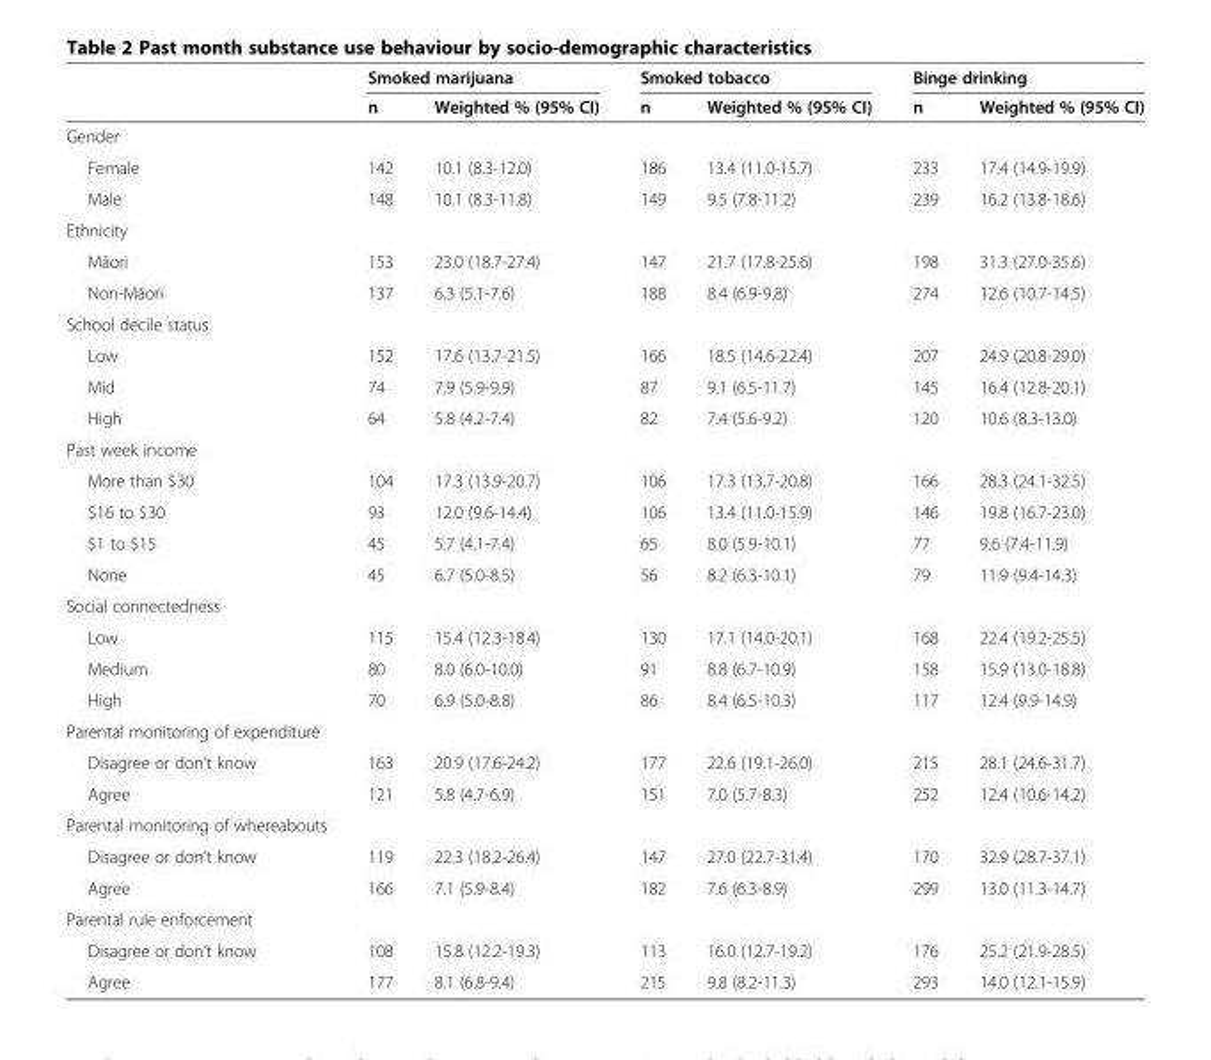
<table><thead><tr><td rowspan="2"></td><td colspan="2">Smoked marijuana</td><td colspan="2">Smoked tobacco</td><td colspan="2">Binge drinking</td></tr><tr><td>n</td><td>Weighted % (95% CI)</td><td>n</td><td>Weighted % (95% CI)</td><td>n</td><td>Weighted % (95% CI)</td></tr></thead><tbody><tr><td colspan="7">Gender</td></tr><tr><td>Female</td><td>142</td><td>10.1 (8.3-12.0)</td><td>186</td><td>13.4 (11.0-15.7)</td><td>233</td><td>17.4 (14.9-19.9)</td></tr><tr><td>Male</td><td>148</td><td>10.1 (8.3-11.8)</td><td>149</td><td>9.5 (7.8-11.2)</td><td>239</td><td>16.2 (13.8-18.6)</td></tr><tr><td colspan="7">Ethnicity</td></tr><tr><td>Māori</td><td>153</td><td>23.0 (18.7-27.4)</td><td>147</td><td>21.7 (17.8-25.6)</td><td>198</td><td>31.3 (27.0-35.6)</td></tr><tr><td>Non-Māori</td><td>137</td><td>6.3 (5.1-7.6)</td><td>188</td><td>8.4 (6.9-9.8)</td><td>274</td><td>12.6 (10.7-14.5)</td></tr><tr><td colspan="7">School decile status</td></tr><tr><td>Low</td><td>152</td><td>17.6 (13.7-21.5)</td><td>166</td><td>18.5 (14.6-22.4)</td><td>207</td><td>24.9 (20.8-29.0)</td></tr><tr><td>Mid</td><td>74</td><td>7.9 (5.9-9.9)</td><td>87</td><td>9.1 (6.5-11.7)</td><td>145</td><td>16.4 (12.8-20.1)</td></tr><tr><td>High</td><td>64</td><td>5.8 (4.2-7.4)</td><td>82</td><td>7.4 (5.6-9.2)</td><td>120</td><td>10.6 (8.3-13.0)</td></tr><tr><td colspan="7">Past week income</td></tr><tr><td>More than $30</td><td>104</td><td>17.3 (13.9-20.7)</td><td>106</td><td>17.3 (13.7-20.8)</td><td>166</td><td>28.3 (24.1-32.5)</td></tr><tr><td>$16 to $30</td><td>93</td><td>12.0 (9.6-14.4)</td><td>106</td><td>13.4 (11.0-15.9)</td><td>146</td><td>19.8 (16.7-23.0)</td></tr><tr><td>$1 to $15</td><td>45</td><td>5.7 (4.1-7.4)</td><td>65</td><td>8.0 (5.9-10.1)</td><td>77</td><td>9.6 (7.4-11.9)</td></tr><tr><td>None</td><td>45</td><td>6.7 (5.0-8.5)</td><td>56</td><td>8.2 (6.3-10.1)</td><td>79</td><td>11.9 (9.4-14.3)</td></tr><tr><td colspan="7">Social connectedness</td></tr><tr><td>Low</td><td>115</td><td>15.4 (12.3-18.4)</td><td>130</td><td>17.1 (14.0-20.1)</td><td>168</td><td>22.4 (19.2-25.5)</td></tr><tr><td>Medium</td><td>80</td><td>8.0 (6.0-10.0)</td><td>91</td><td>8.8 (6.7-10.9)</td><td>158</td><td>15.9 (13.0-18.8)</td></tr><tr><td>High</td><td>70</td><td>6.9 (5.0-8.8)</td><td>86</td><td>8.4 (6.5-10.3)</td><td>117</td><td>12.4 (9.9-14.9)</td></tr><tr><td colspan="7">Parental monitoring of expenditure</td></tr><tr><td>Disagree or don’t know</td><td>163</td><td>20.9 (17.6-24.2)</td><td>177</td><td>22.6 (19.1-26.0)</td><td>215</td><td>28.1 (24.6-31.7)</td></tr><tr><td>Agree</td><td>121</td><td>5.8 (4.7-6.9)</td><td>151</td><td>7.0 (5.7-8.3)</td><td>252</td><td>12.4 (10.6-14.2)</td></tr><tr><td colspan="7">Parental monitoring of whereabouts</td></tr><tr><td>Disagree or don’t know</td><td>119</td><td>22.3 (18.2-26.4)</td><td>147</td><td>27.0 (22.7-31.4)</td><td>170</td><td>32.9 (28.7-37.1)</td></tr><tr><td>Agree</td><td>166</td><td>7.1 (5.9-8.4)</td><td>182</td><td>7.6 (6.3-8.9)</td><td>299</td><td>13.0 (11.3-14.7)</td></tr><tr><td colspan="7">Parental rule enforcement</td></tr><tr><td>Disagree or don’t know</td><td>108</td><td>15.8 (12.2-19.3)</td><td>113</td><td>16.0 (12.7-19.2)</td><td>176</td><td>25.2 (21.9-28.5)</td></tr><tr><td>Agree</td><td>177</td><td>8.1 (6.8-9.4)</td><td>215</td><td>9.8 (8.2-11.3)</td><td>293</td><td>14.0 (12.1-15.9)</td></tr></tbody></table>